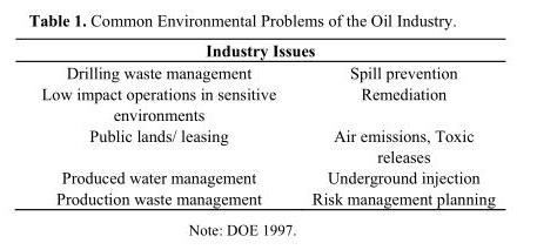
<table><thead><tr><td colspan="2">Industry Issues</td></tr><tr><td>Drilling waste management</td><td>Spill prevention</td></tr></thead><tbody><tr><td>Low impact operations in sensitive environments</td><td>Remediation</td></tr><tr><td>Public lands/ leasing</td><td>Air emissions, Toxic releases</td></tr><tr><td>Produced water management</td><td>Underground injection</td></tr><tr><td>Production waste management</td><td>Risk management planning</td></tr></tbody></table>